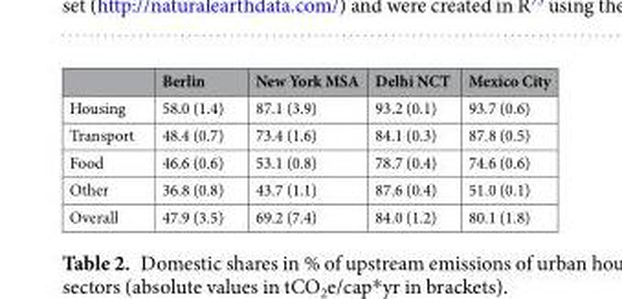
<table><thead><tr><td></td><td>Berlin</td><td>New York MSA</td><td>Delhi NCT</td><td>Mexico City</td></tr></thead><tbody><tr><td>Housing</td><td>58.0 (1.4)</td><td>87.1 (3.9)</td><td>93.2 (0.1)</td><td>93.7 (0.6)</td></tr><tr><td>Transport</td><td>48.4 (0.7)</td><td>73.4 (1.6)</td><td>84.1 (0.3)</td><td>87.8 (0.5)</td></tr><tr><td>Food</td><td>46.6 (0.6)</td><td>53.1 (0.8)</td><td>78.7 (0.4)</td><td>74.6 (0.6)</td></tr><tr><td>Other</td><td>36.8 (0.8)</td><td>43.7 (1.1)</td><td>87.6 (0.4)</td><td>51.0 (0.1)</td></tr><tr><td>Overall</td><td>47.9 (3.5)</td><td>69.2 (7.4)</td><td>84.0 (1.2)</td><td>80.1 (1.8)</td></tr></tbody></table>